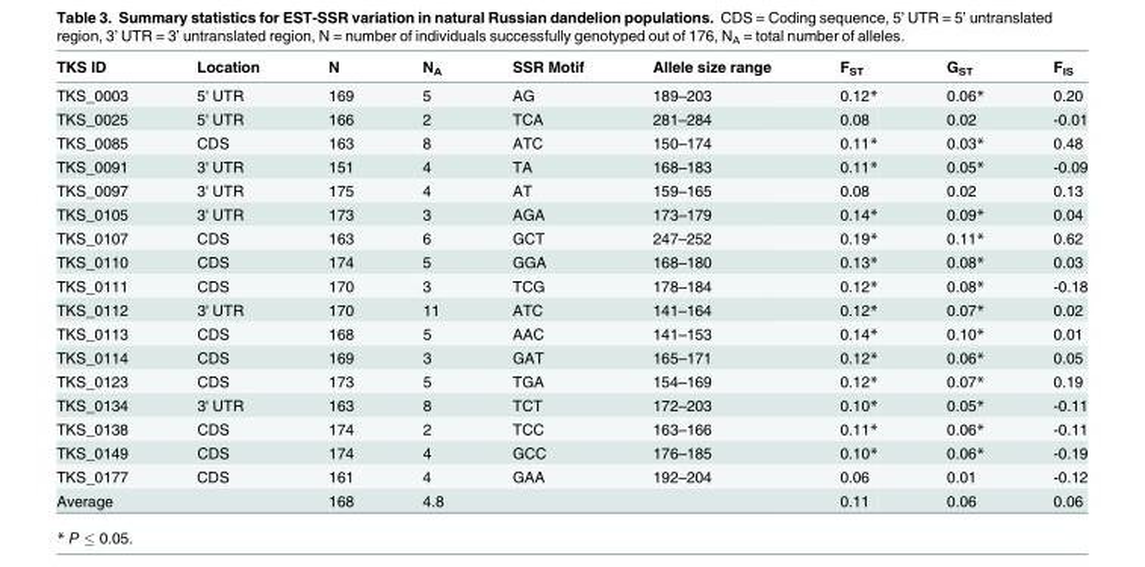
<table><thead><tr><td>TKS ID</td><td>Location</td><td>N</td><td>N<sub>A</sub></td><td>SSR Motif</td><td>Allele size range</td><td>F<sub>ST</sub></td><td>G<sub>ST</sub></td><td>F<sub>IS</sub></td></tr></thead><tbody><tr><td>TKS_0003</td><td>5&#x27; UTR</td><td>169</td><td>5</td><td>AG</td><td>189–203</td><td>0.12*</td><td>0.06*</td><td>0.20</td></tr><tr><td>TKS_0025</td><td>5&#x27; UTR</td><td>166</td><td>2</td><td>TCA</td><td>281–284</td><td>0.08</td><td>0.02</td><td>-0.01</td></tr><tr><td>TKS_0085</td><td>CDS</td><td>163</td><td>8</td><td>ATC</td><td>150–174</td><td>0.11*</td><td>0.03*</td><td>0.48</td></tr><tr><td>TKS_0091</td><td>3&#x27; UTR</td><td>151</td><td>4</td><td>TA</td><td>168–183</td><td>0.11*</td><td>0.05*</td><td>-0.09</td></tr><tr><td>TKS_0097</td><td>3&#x27; UTR</td><td>175</td><td>4</td><td>AT</td><td>159–165</td><td>0.08</td><td>0.02</td><td>0.13</td></tr><tr><td>TKS_0105</td><td>3&#x27; UTR</td><td>173</td><td>3</td><td>AGA</td><td>173–179</td><td>0.14*</td><td>0.09*</td><td>0.04</td></tr><tr><td>TKS_0107</td><td>CDS</td><td>163</td><td>6</td><td>GCT</td><td>247–252</td><td>0.19*</td><td>0.11*</td><td>0.62</td></tr><tr><td>TKS_0110</td><td>CDS</td><td>174</td><td>5</td><td>GGA</td><td>168–180</td><td>0.13*</td><td>0.08*</td><td>0.03</td></tr><tr><td>TKS_0111</td><td>CDS</td><td>170</td><td>3</td><td>TCG</td><td>178–184</td><td>0.12*</td><td>0.08*</td><td>-0.18</td></tr><tr><td>TKS_0112</td><td>3&#x27; UTR</td><td>170</td><td>11</td><td>ATC</td><td>141–164</td><td>0.12*</td><td>0.07*</td><td>0.02</td></tr><tr><td>TKS_0113</td><td>CDS</td><td>168</td><td>5</td><td>AAC</td><td>141–153</td><td>0.14*</td><td>0.10*</td><td>0.01</td></tr><tr><td>TKS_0114</td><td>CDS</td><td>169</td><td>3</td><td>GAT</td><td>165–171</td><td>0.12*</td><td>0.06*</td><td>0.05</td></tr><tr><td>TKS_0123</td><td>CDS</td><td>173</td><td>5</td><td>TGA</td><td>154–169</td><td>0.12*</td><td>0.07*</td><td>0.19</td></tr><tr><td>TKS_0134</td><td>3&#x27; UTR</td><td>163</td><td>8</td><td>TCT</td><td>172–203</td><td>0.10*</td><td>0.05*</td><td>-0.11</td></tr><tr><td>TKS_0138</td><td>CDS</td><td>174</td><td>2</td><td>TCC</td><td>163–166</td><td>0.11*</td><td>0.06*</td><td>-0.11</td></tr><tr><td>TKS_0149</td><td>CDS</td><td>174</td><td>4</td><td>GCC</td><td>176–185</td><td>0.10*</td><td>0.06*</td><td>-0.19</td></tr><tr><td>TKS_0177</td><td>CDS</td><td>161</td><td>4</td><td>GAA</td><td>192–204</td><td>0.06</td><td>0.01</td><td>-0.12</td></tr><tr><td>Average</td><td></td><td>168</td><td>4.8</td><td></td><td></td><td>0.11</td><td>0.06</td><td>0.06</td></tr></tbody></table>